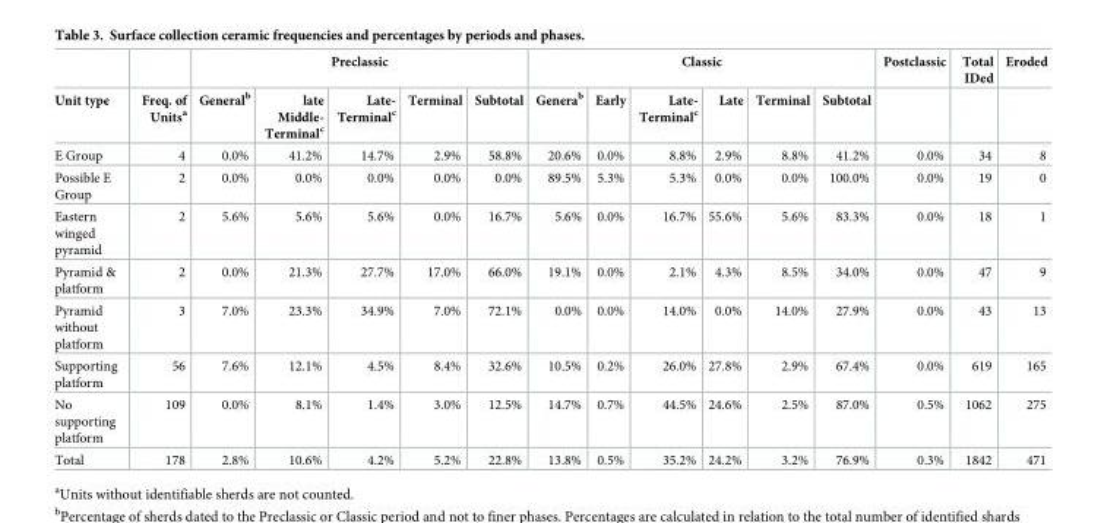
<table><thead><tr><td rowspan="2">Unit type</td><td rowspan="2">Freq. of Units<sup>a</sup></td><td colspan="5">Preclassic</td><td colspan="6">Classic</td><td rowspan="2">Postclassic</td><td rowspan="2">Total IDed</td><td rowspan="2">Eroded</td></tr><tr><td>General<sup>b</sup></td><td>late Middle- Terminal<sup>c</sup></td><td>Late- Terminal<sup>c</sup></td><td>Terminal</td><td>Subtotal</td><td>Genera<sup>b</sup></td><td>Early</td><td>Late- Terminal<sup>c</sup></td><td>Late</td><td>Terminal</td><td>Subtotal</td></tr></thead><tbody><tr><td>E Group</td><td>4</td><td>0.0%</td><td>41.2%</td><td>14.7%</td><td>2.9%</td><td>58.8%</td><td>20.6%</td><td>0.0%</td><td>8.8%</td><td>2.9%</td><td>8.8%</td><td>41.2%</td><td>0.0%</td><td>34</td><td>8</td></tr><tr><td>Possible E Group</td><td>2</td><td>0.0%</td><td>0.0%</td><td>0.0%</td><td>0.0%</td><td>0.0%</td><td>89.5%</td><td>5.3%</td><td>5.3%</td><td>0.0%</td><td>0.0%</td><td>100.0%</td><td>0.0%</td><td>19</td><td>0</td></tr><tr><td>Eastern winged pyramid</td><td>2</td><td>5.6%</td><td>5.6%</td><td>5.6%</td><td>0.0%</td><td>16.7%</td><td>5.6%</td><td>0.0%</td><td>16.7%</td><td>55.6%</td><td>5.6%</td><td>83.3%</td><td>0.0%</td><td>18</td><td>1</td></tr><tr><td>Pyramid &amp; platform</td><td>2</td><td>0.0%</td><td>21.3%</td><td>27.7%</td><td>17.0%</td><td>66.0%</td><td>19.1%</td><td>0.0%</td><td>2.1%</td><td>4.3%</td><td>8.5%</td><td>34.0%</td><td>0.0%</td><td>47</td><td>9</td></tr><tr><td>Pyramid without platform</td><td>3</td><td>7.0%</td><td>23.3%</td><td>34.9%</td><td>7.0%</td><td>72.1%</td><td>0.0%</td><td>0.0%</td><td>14.0%</td><td>0.0%</td><td>14.0%</td><td>27.9%</td><td>0.0%</td><td>43</td><td>13</td></tr><tr><td>Supporting platform</td><td>56</td><td>7.6%</td><td>12.1%</td><td>4.5%</td><td>8.4%</td><td>32.6%</td><td>10.5%</td><td>0.2%</td><td>26.0%</td><td>27.8%</td><td>2.9%</td><td>67.4%</td><td>0.0%</td><td>619</td><td>165</td></tr><tr><td>No supporting platform</td><td>109</td><td>0.0%</td><td>8.1%</td><td>1.4%</td><td>3.0%</td><td>12.5%</td><td>14.7%</td><td>0.7%</td><td>44.5%</td><td>24.6%</td><td>2.5%</td><td>87.0%</td><td>0.5%</td><td>1062</td><td>275</td></tr><tr><td>Total</td><td>178</td><td>2.8%</td><td>10.6%</td><td>4.2%</td><td>5.2%</td><td>22.8%</td><td>13.8%</td><td>0.5%</td><td>35.2%</td><td>24.2%</td><td>3.2%</td><td>76.9%</td><td>0.3%</td><td>1842</td><td>471</td></tr></tbody></table>